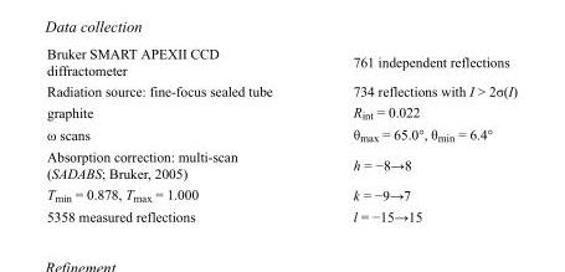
<table><tbody><tr><td>Bruker SMART APEXII CCD diffractometer</td><td>761 independent reflections</td></tr><tr><td>Radiation source: fine-focus sealed tube</td><td>734 reflections with I &gt; 2σ(I)</td></tr><tr><td>graphite</td><td>R<sub>int</sub> = 0.022</td></tr><tr><td>ω scans</td><td>θ<sub>max</sub> = 65.0°, θ<sub>min</sub> = 6.4°</td></tr><tr><td>Absorption correction: multi-scan (SADABS; Bruker, 2005)</td><td>h = −8→8</td></tr><tr><td>T<sub>min</sub> = 0.878, T<sub>max</sub> = 1.000</td><td>k = −9→7</td></tr><tr><td>5358 measured reflections</td><td>l = −15→15</td></tr></tbody></table>